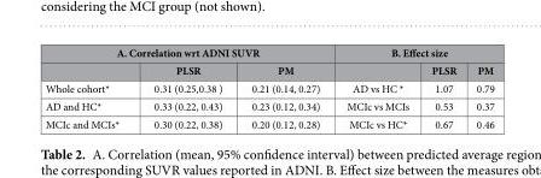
<table><thead><tr><td colspan="3">A. Correlation wrt ADNI SUVR</td><td colspan="3">B. Effect size</td></tr><tr><td></td><td>PLSR</td><td>PM</td><td></td><td>PLSR</td><td>PM</td></tr></thead><tbody><tr><td>Whole cohort*</td><td>0.31 (0.25,0.38 )</td><td>0.21 (0.14, 0.27)</td><td>AD vs HC *</td><td>1.07</td><td>0.79</td></tr><tr><td>AD and HC*</td><td>0.33 (0.22, 0.43)</td><td>0.23 (0.12, 0.34)</td><td>MCIc vs MCIs</td><td>0.53</td><td>0.37</td></tr><tr><td>MCIc and MCIs*</td><td>0.30 (0.22, 0.38)</td><td>0.20 (0.12, 0.28)</td><td>MCIc vs HC*</td><td>0.67</td><td>0.46</td></tr></tbody></table>